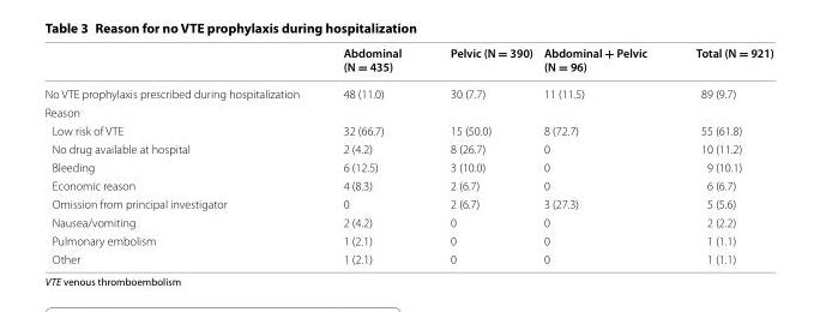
<table><thead><tr><td></td><td>Abdominal (N = 435)</td><td>Pelvic (N = 390)</td><td>Abdominal + Pelvic (N = 96)</td><td>Total (N = 921)</td></tr></thead><tbody><tr><td>No VTE prophylaxis prescribed during hospitalization</td><td>48 (11.0)</td><td>30 (7.7)</td><td>11 (11.5)</td><td>89 (9.7)</td></tr><tr><td colspan="5">Reason</td></tr><tr><td>Low risk of VTE</td><td>32 (66.7)</td><td>15 (50.0)</td><td>8 (72.7)</td><td>55 (61.8)</td></tr><tr><td>No drug available at hospital</td><td>2 (4.2)</td><td>8 (26.7)</td><td>0</td><td>10 (11.2)</td></tr><tr><td>Bleeding</td><td>6 (12.5)</td><td>3 (10.0)</td><td>0</td><td>9 (10.1)</td></tr><tr><td>Economic reason</td><td>4 (8.3)</td><td>2 (6.7)</td><td>0</td><td>6 (6.7)</td></tr><tr><td>Omission from principal investigator</td><td>0</td><td>2 (6.7)</td><td>3 (27.3)</td><td>5 (5.6)</td></tr><tr><td>Nausea/vomiting</td><td>2 (4.2)</td><td>0</td><td>0</td><td>2 (2.2)</td></tr><tr><td>Pulmonary embolism</td><td>1 (2.1)</td><td>0</td><td>0</td><td>1 (1.1)</td></tr><tr><td>Other</td><td>1 (2.1)</td><td>0</td><td>0</td><td>1 (1.1)</td></tr></tbody></table>